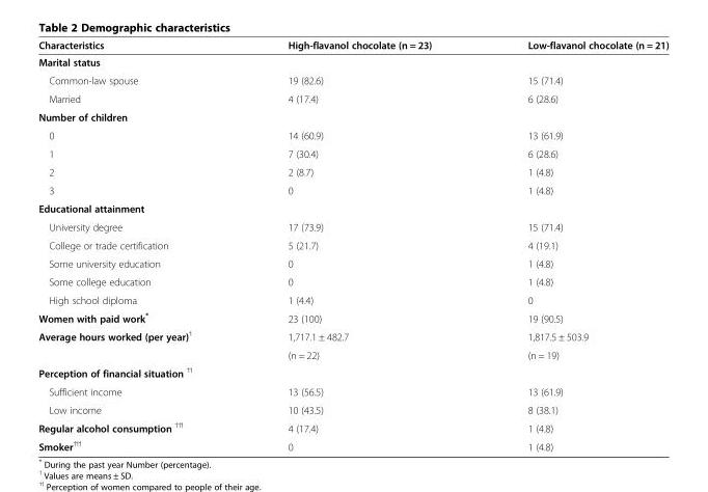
<table><thead><tr><td>Characteristics</td><td>High-flavanol chocolate (n = 23)</td><td>Low-flavanol chocolate (n = 21)</td></tr></thead><tbody><tr><td colspan="3">Marital status</td></tr><tr><td>Common-law spouse</td><td>19 (82.6)</td><td>15 (71.4)</td></tr><tr><td>Married</td><td>4 (17.4)</td><td>6 (28.6)</td></tr><tr><td colspan="3">Number of children</td></tr><tr><td>0</td><td>14 (60.9)</td><td>13 (61.9)</td></tr><tr><td>1</td><td>7 (30.4)</td><td>6 (28.6)</td></tr><tr><td>2</td><td>2 (8.7)</td><td>1 (4.8)</td></tr><tr><td>3</td><td>0</td><td>1 (4.8)</td></tr><tr><td colspan="3">Educational attainment</td></tr><tr><td>University degree</td><td>17 (73.9)</td><td>15 (71.4)</td></tr><tr><td>College or trade certification</td><td>5 (21.7)</td><td>4 (19.1)</td></tr><tr><td>Some university education</td><td>0</td><td>1 (4.8)</td></tr><tr><td>Some college education</td><td>0</td><td>1 (4.8)</td></tr><tr><td>High school diploma</td><td>1 (4.4)</td><td>0</td></tr><tr><td>Women with paid work*</td><td>23 (100)</td><td>19 (90.5)</td></tr><tr><td rowspan="2">Average hours worked (per year)<sup>˦</sup></td><td>1,717.1 ± 482.7</td><td>1,817.5 ± 503.9</td></tr><tr><td>(n = 22)</td><td>(n = 19)</td></tr><tr><td colspan="3">Perception of financial situation <sup>˦˦</sup></td></tr><tr><td>Sufficient income</td><td>13 (56.5)</td><td>13 (61.9)</td></tr><tr><td>Low income</td><td>10 (43.5)</td><td>8 (38.1)</td></tr><tr><td>Regular alcohol consumption <sup>˦˦˦</sup></td><td>4 (17.4)</td><td>1 (4.8)</td></tr><tr><td>Smoker<sup>˦˦˦</sup></td><td>0</td><td>1 (4.8)</td></tr></tbody></table>